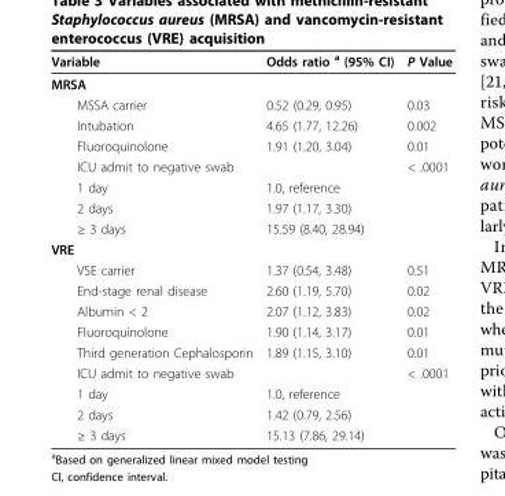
<table><thead><tr><td>Variable</td><td>Odds ratio <sup>a</sup> (95% CI)</td><td>P Value</td></tr></thead><tbody><tr><td colspan="3">MRSA</td></tr><tr><td>MSSA carrier</td><td>0.52 (0.29, 0.95)</td><td>0.03</td></tr><tr><td>Intubation</td><td>4.65 (1.77, 12.26)</td><td>0.002</td></tr><tr><td>Fluoroquinolone</td><td>1.91 (1.20, 3.04)</td><td>0.01</td></tr><tr><td>ICU admit to negative swab</td><td></td><td>&lt; .0001</td></tr><tr><td>1 day</td><td>1.0, reference</td><td></td></tr><tr><td>2 days</td><td>1.97 (1.17, 3.30)</td><td></td></tr><tr><td>≥ 3 days</td><td>15.59 (8.40, 28.94)</td><td></td></tr><tr><td colspan="3">VRE</td></tr><tr><td>VSE carrier</td><td>1.37 (0.54, 3.48)</td><td>0.51</td></tr><tr><td>End-stage renal disease</td><td>2.60 (1.19, 5.70)</td><td>0.02</td></tr><tr><td>Albumin &lt; 2</td><td>2.07 (1.12, 3.83)</td><td>0.02</td></tr><tr><td>Fluoroquinolone</td><td>1.90 (1.14, 3.17)</td><td>0.01</td></tr><tr><td>Third generation Cephalosporin</td><td>1.89 (1.15, 3.10)</td><td>0.01</td></tr><tr><td>ICU admit to negative swab</td><td></td><td>&lt; .0001</td></tr><tr><td>1 day</td><td>1.0, reference</td><td></td></tr><tr><td>2 days</td><td>1.42 (0.79, 2.56)</td><td></td></tr><tr><td>≥ 3 days</td><td>15.13 (7.86, 29.14)</td><td></td></tr></tbody></table>